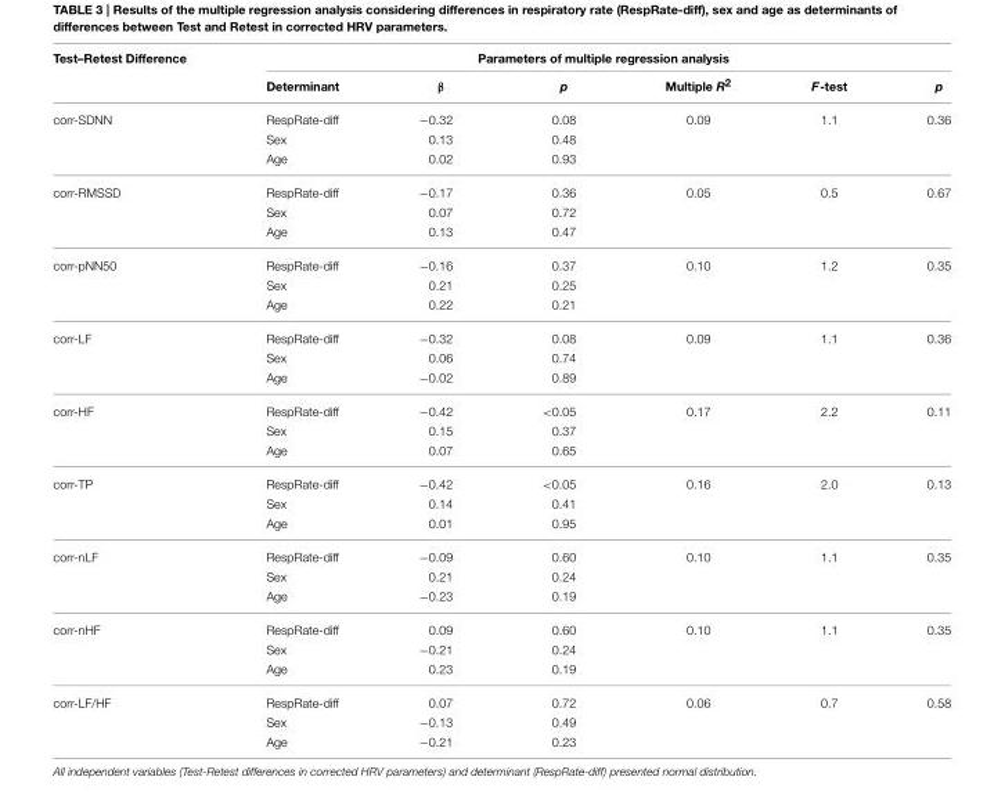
<table><thead><tr><td rowspan="2">Test–Retest Difference</td><td colspan="6">Parameters of multiple regression analysis</td></tr><tr><td>Determinant</td><td>β</td><td>p</td><td>Multiple R<sup>2</sup></td><td>F-test</td><td>p</td></tr></thead><tbody><tr><td rowspan="3">corr-SDNN</td><td>RespRate-diff</td><td>−0.32</td><td>0.08</td><td>0.09</td><td>1.1</td><td>0.36</td></tr><tr><td>Sex</td><td>0.13</td><td>0.48</td><td></td><td></td><td></td></tr><tr><td>Age</td><td>0.02</td><td>0.93</td><td></td><td></td><td></td></tr><tr><td rowspan="3">corr-RMSSD</td><td>RespRate-diff</td><td>−0.17</td><td>0.36</td><td>0.05</td><td>0.5</td><td>0.67</td></tr><tr><td>Sex</td><td>0.07</td><td>0.72</td><td></td><td></td><td></td></tr><tr><td>Age</td><td>0.13</td><td>0.47</td><td></td><td></td><td></td></tr><tr><td rowspan="3">corr-pNN50</td><td>RespRate-diff</td><td>−0.16</td><td>0.37</td><td>0.10</td><td>1.2</td><td>0.35</td></tr><tr><td>Sex</td><td>0.21</td><td>0.25</td><td></td><td></td><td></td></tr><tr><td>Age</td><td>0.22</td><td>0.21</td><td></td><td></td><td></td></tr><tr><td rowspan="3">corr-LF</td><td>RespRate-diff</td><td>−0.32</td><td>0.08</td><td>0.09</td><td>1.1</td><td>0.36</td></tr><tr><td>Sex</td><td>0.06</td><td>0.74</td><td></td><td></td><td></td></tr><tr><td>Age</td><td>−0.02</td><td>0.89</td><td></td><td></td><td></td></tr><tr><td rowspan="3">corr-HF</td><td>RespRate-diff</td><td>−0.42</td><td>&lt;0.05</td><td>0.17</td><td>2.2</td><td>0.11</td></tr><tr><td>Sex</td><td>0.15</td><td>0.37</td><td></td><td></td><td></td></tr><tr><td>Age</td><td>0.07</td><td>0.65</td><td></td><td></td><td></td></tr><tr><td rowspan="3">corr-TP</td><td>RespRate-diff</td><td>−0.42</td><td>&lt;0.05</td><td>0.16</td><td>2.0</td><td>0.13</td></tr><tr><td>Sex</td><td>0.14</td><td>0.41</td><td></td><td></td><td></td></tr><tr><td>Age</td><td>0.01</td><td>0.95</td><td></td><td></td><td></td></tr><tr><td rowspan="3">corr-nLF</td><td>RespRate-diff</td><td>−0.09</td><td>0.60</td><td>0.10</td><td>1.1</td><td>0.35</td></tr><tr><td>Sex</td><td>0.21</td><td>0.24</td><td></td><td></td><td></td></tr><tr><td>Age</td><td>−0.23</td><td>0.19</td><td></td><td></td><td></td></tr><tr><td rowspan="3">corr-nHF</td><td>RespRate-diff</td><td>0.09</td><td>0.60</td><td>0.10</td><td>1.1</td><td>0.35</td></tr><tr><td>Sex</td><td>−0.21</td><td>0.24</td><td></td><td></td><td></td></tr><tr><td>Age</td><td>0.23</td><td>0.19</td><td></td><td></td><td></td></tr><tr><td rowspan="3">corr-LF/HF</td><td>RespRate-diff</td><td>0.07</td><td>0.72</td><td>0.06</td><td>0.7</td><td>0.58</td></tr><tr><td>Sex</td><td>−0.13</td><td>0.49</td><td></td><td></td><td></td></tr><tr><td>Age</td><td>−0.21</td><td>0.23</td><td></td><td></td><td></td></tr></tbody></table>